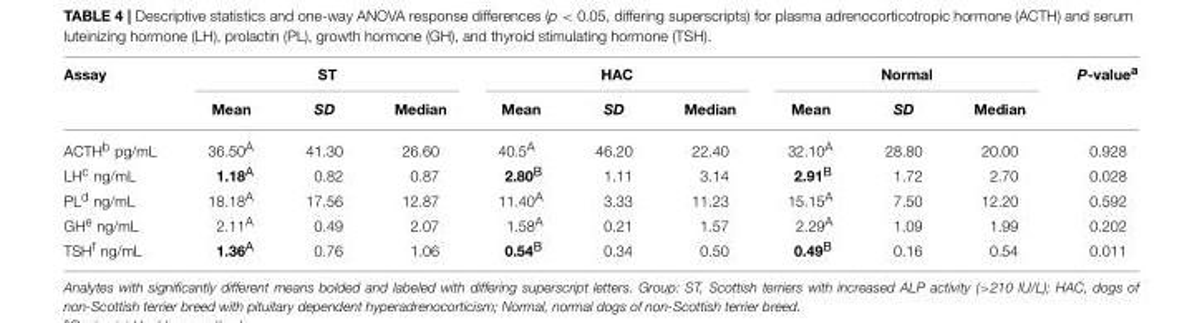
<table><thead><tr><td rowspan="2">Assay</td><td colspan="3">ST</td><td colspan="3">HAC</td><td colspan="3">Normal</td><td rowspan="2">P-value<sup>a</sup></td></tr><tr><td>Mean</td><td>SD</td><td>Median</td><td>Mean</td><td>SD</td><td>Median</td><td>Mean</td><td>SD</td><td>Median</td></tr></thead><tbody><tr><td>ACTH<sup>b</sup> pg/mL</td><td>36.50<sup>A</sup></td><td>41.30</td><td>26.60</td><td>40.5<sup>A</sup></td><td>46.20</td><td>22.40</td><td>32.10<sup>A</sup></td><td>28.80</td><td>20.00</td><td>0.928</td></tr><tr><td>LH<sup>c</sup> ng/mL</td><td>1.18<sup>A</sup></td><td>0.82</td><td>0.87</td><td>2.80<sup>B</sup></td><td>1.11</td><td>3.14</td><td>2.91<sup>B</sup></td><td>1.72</td><td>2.70</td><td>0.028</td></tr><tr><td>PL<sup>d</sup> ng/mL</td><td>18.18<sup>A</sup></td><td>17.56</td><td>12.87</td><td>11.40<sup>A</sup></td><td>3.33</td><td>11.23</td><td>15.15<sup>A</sup></td><td>7.50</td><td>12.20</td><td>0.592</td></tr><tr><td>GH<sup>e</sup> ng/mL</td><td>2.11<sup>A</sup></td><td>0.49</td><td>2.07</td><td>1.58<sup>A</sup></td><td>0.21</td><td>1.57</td><td>2.29<sup>A</sup></td><td>1.09</td><td>1.99</td><td>0.202</td></tr><tr><td>TSH<sup>f</sup> ng/mL</td><td>1.36<sup>A</sup></td><td>0.76</td><td>1.06</td><td>0.54<sup>B</sup></td><td>0.34</td><td>0.50</td><td>0.49<sup>B</sup></td><td>0.16</td><td>0.54</td><td>0.011</td></tr></tbody></table>